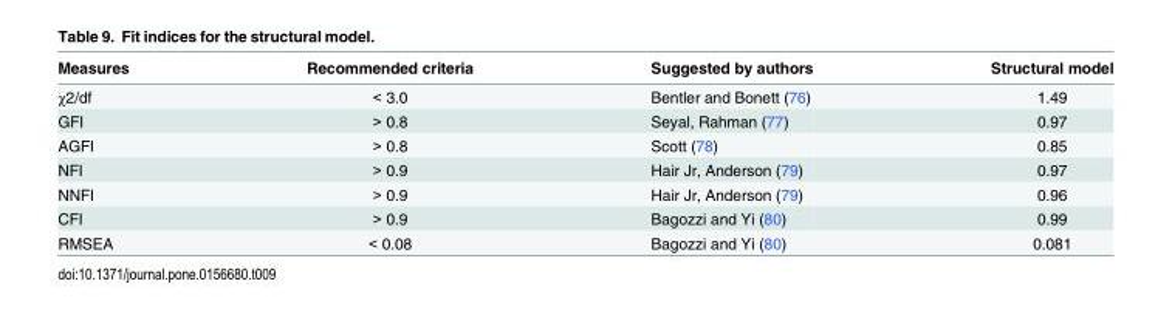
<table><thead><tr><td>Measures</td><td>Recommended criteria</td><td>Suggested by authors</td><td>Structural model</td></tr></thead><tbody><tr><td>χ2/df</td><td>&lt; 3.0</td><td>Bentler and Bonett (76)</td><td>1.49</td></tr><tr><td>GFI</td><td>&gt; 0.8</td><td>Seyal, Rahman (77)</td><td>0.97</td></tr><tr><td>AGFI</td><td>&gt; 0.8</td><td>Scott (78)</td><td>0.85</td></tr><tr><td>NFI</td><td>&gt; 0.9</td><td>Hair Jr, Anderson (79)</td><td>0.97</td></tr><tr><td>NNFI</td><td>&gt; 0.9</td><td>Hair Jr, Anderson (79)</td><td>0.96</td></tr><tr><td>CFI</td><td>&gt; 0.9</td><td>Bagozzi and Yi (80)</td><td>0.99</td></tr><tr><td>RMSEA</td><td>&lt; 0.08</td><td>Bagozzi and Yi (80)</td><td>0.081</td></tr></tbody></table>